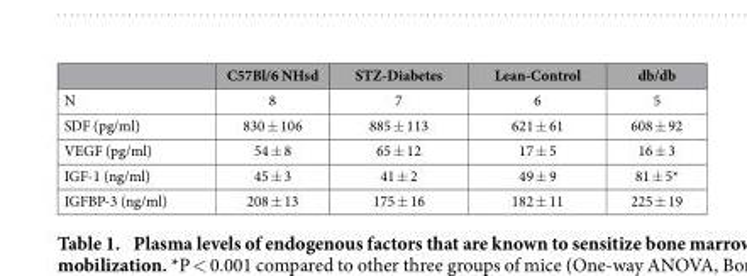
<table><thead><tr><td></td><td>C57Bl/6 NHsd</td><td>STZ-Diabetes</td><td>Lean-Control</td><td>db/db</td></tr></thead><tbody><tr><td>N</td><td>8</td><td>7</td><td>6</td><td>5</td></tr><tr><td>SDF (pg/ml)</td><td>830 ± 106</td><td>885 ± 113</td><td>621 ± 61</td><td>608 ± 92</td></tr><tr><td>VEGF (pg/ml)</td><td>54 ± 8</td><td>65 ± 12</td><td>17 ± 5</td><td>16 ± 3</td></tr><tr><td>IGF-1 (ng/ml)</td><td>45 ± 3</td><td>41 ± 2</td><td>49 ± 9</td><td>81 ± 5*</td></tr><tr><td>IGFBP-3 (ng/ml)</td><td>208 ± 13</td><td>175 ± 16</td><td>182 ± 11</td><td>225 ± 19</td></tr></tbody></table>